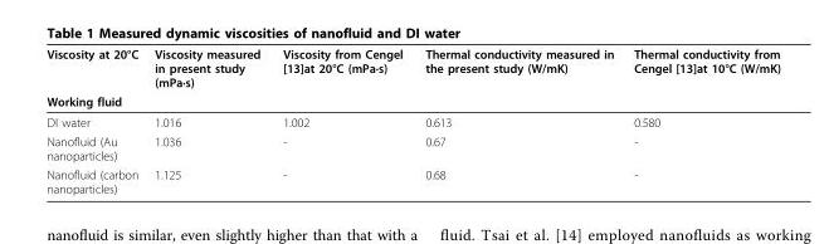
<table><thead><tr><td rowspan="2">Viscosity at 20°C Working fluid</td><td rowspan="2">Viscosity measured in present study (mPa·s)</td><td rowspan="2">Viscosity from Cengel [13]at 20°C (mPa·s)</td><td rowspan="2">Thermal conductivity measured in the present study (W/mK)</td><td rowspan="2">Thermal conductivity from Cengel [13]at 10°C (W/mK)</td></tr><tr></tr></thead><tbody><tr><td>DI water</td><td>1.016</td><td>1.002</td><td>0.613</td><td>0.580</td></tr><tr><td>Nanofluid (Au nanoparticles)</td><td>1.036</td><td>-</td><td>0.67</td><td>-</td></tr><tr><td>Nanofluid (carbon nanoparticles)</td><td>1.125</td><td>-</td><td>0.68</td><td>-</td></tr></tbody></table>